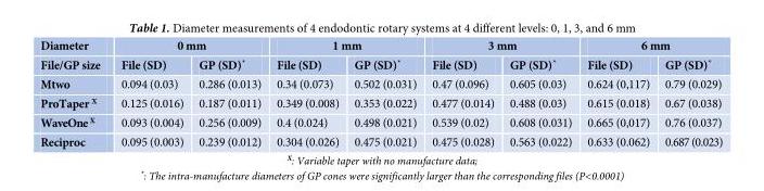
<table><thead><tr><td rowspan="2">Diameter File/GP size</td><td colspan="2">0 mm</td><td colspan="2">1 mm</td><td colspan="2">3 mm</td><td colspan="2">6 mm</td></tr><tr><td>File (SD)</td><td>GP (SD)*</td><td>File (SD)</td><td>GP (SD)*</td><td>File (SD)</td><td>GP (SD)*</td><td>File (SD)</td><td>GP (SD)*</td></tr></thead><tbody><tr><td>Mtwo</td><td>0.094 (0.03)</td><td>0.286 (0.013)</td><td>0.34 (0.073)</td><td>0.502 (0.031)</td><td>0.47 (0.096)</td><td>0.605 (0.03)</td><td>0.624 (0,117)</td><td>0.79 (0.029)</td></tr><tr><td>ProTaper <sup>X</sup></td><td>0.125 (0.016)</td><td>0.187 (0.011)</td><td>0.349 (0.008)</td><td>0.353 (0.022)</td><td>0.477 (0.014)</td><td>0.488 (0.03)</td><td>0.615 (0.018)</td><td>0.67 (0.038)</td></tr><tr><td>WaveOne <sup>X</sup></td><td>0.093 (0.004)</td><td>0.256 (0.009)</td><td>0.4 (0.024)</td><td>0.498 (0.021)</td><td>0.539 (0.02)</td><td>0.608 (0.031)</td><td>0.665 (0,017)</td><td>0.76 (0.037)</td></tr><tr><td>Reciproc</td><td>0.095 (0.003)</td><td>0.239 (0.012)</td><td>0.304 (0.026)</td><td>0.475 (0.021)</td><td>0.475 (0.028)</td><td>0.563 (0.022)</td><td>0.633 (0.062)</td><td>0.687 (0.023)</td></tr></tbody></table>